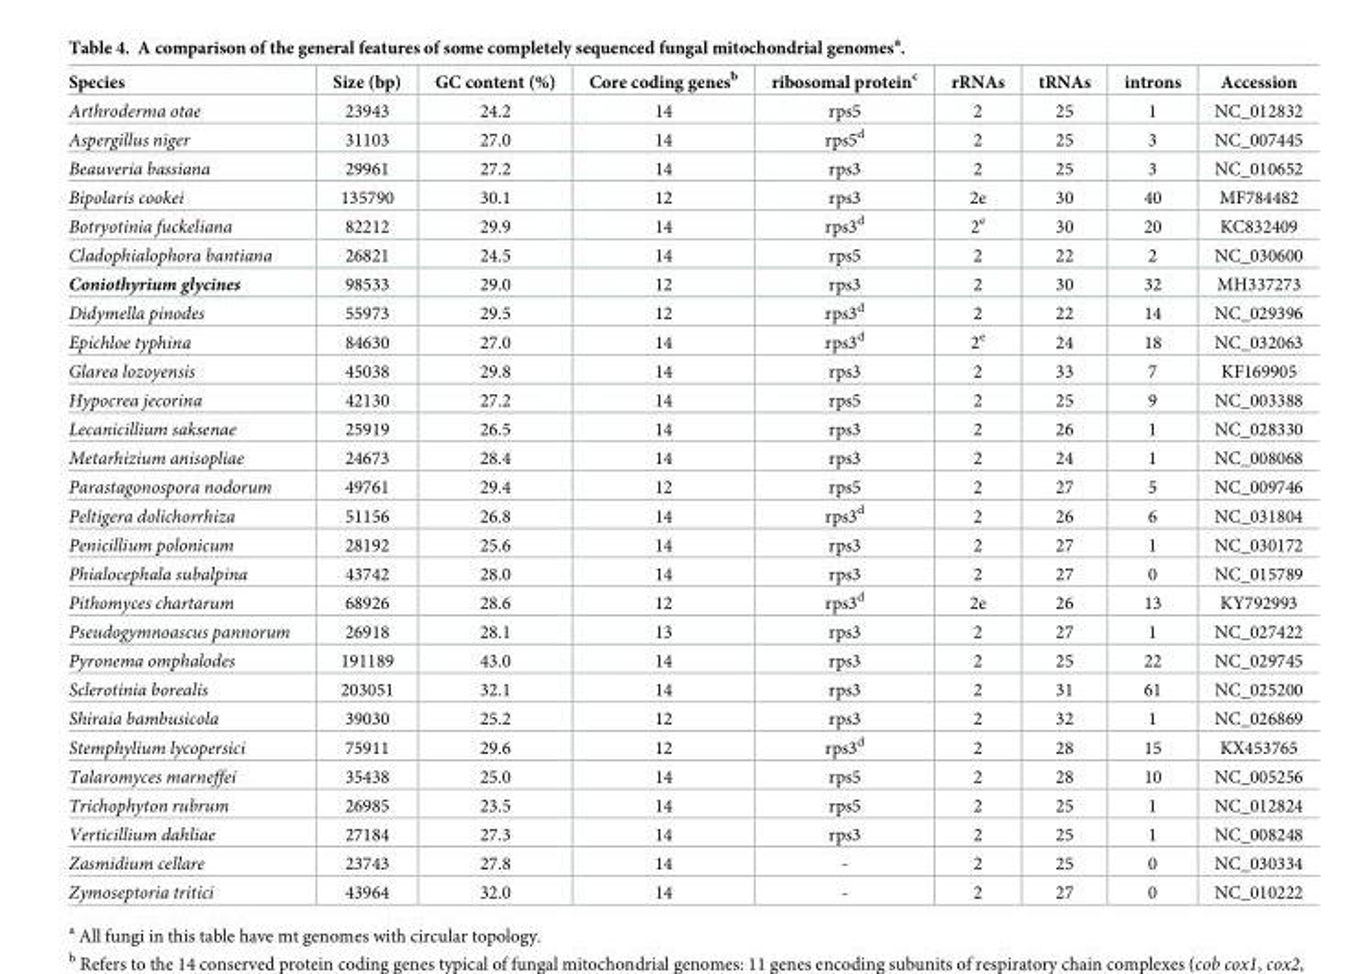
<table><thead><tr><td>Species</td><td>Size (bp)</td><td>GC content (%)</td><td>Core coding genes<sup>b</sup></td><td>ribosomal protein<sup>c</sup></td><td>rRNAs</td><td>tRNAs</td><td>introns</td><td>Accession</td></tr></thead><tbody><tr><td>Arthroderma otae</td><td>23943</td><td>24.2</td><td>14</td><td>rps5</td><td>2</td><td>25</td><td>1</td><td>NC_012832</td></tr><tr><td>Aspergillus niger</td><td>31103</td><td>27.0</td><td>14</td><td>rps5<sup>d</sup></td><td>2</td><td>25</td><td>3</td><td>NC_007445</td></tr><tr><td>Beauveria bassiana</td><td>29961</td><td>27.2</td><td>14</td><td>rps3</td><td>2</td><td>25</td><td>3</td><td>NC_010652</td></tr><tr><td>Bipolaris cookei</td><td>135790</td><td>30.1</td><td>12</td><td>rps3</td><td>2e</td><td>30</td><td>40</td><td>MF784482</td></tr><tr><td>Botryotinia fuckeliana</td><td>82212</td><td>29.9</td><td>14</td><td>rps3<sup>d</sup></td><td>2<sup>e</sup></td><td>30</td><td>20</td><td>KC832409</td></tr><tr><td>Cladophialophora bantiana</td><td>26821</td><td>24.5</td><td>14</td><td>rps5</td><td>2</td><td>22</td><td>2</td><td>NC_030600</td></tr><tr><td>Coniothyrium glycines</td><td>98533</td><td>29.0</td><td>12</td><td>rps3</td><td>2</td><td>30</td><td>32</td><td>MH337273</td></tr><tr><td>Didymella pinodes</td><td>55973</td><td>29.5</td><td>12</td><td>rps3<sup>d</sup></td><td>2</td><td>22</td><td>14</td><td>NC_029396</td></tr><tr><td>Epichloe typhina</td><td>84630</td><td>27.0</td><td>14</td><td>rps3<sup>d</sup></td><td>2<sup>e</sup></td><td>24</td><td>18</td><td>NC_032063</td></tr><tr><td>Glarea lozoyensis</td><td>45038</td><td>29.8</td><td>14</td><td>rps3</td><td>2</td><td>33</td><td>7</td><td>KF169905</td></tr><tr><td>Hypocrea jecorina</td><td>42130</td><td>27.2</td><td>14</td><td>rps5</td><td>2</td><td>25</td><td>9</td><td>NC_003388</td></tr><tr><td>Lecanicillium saksenae</td><td>25919</td><td>26.5</td><td>14</td><td>rps3</td><td>2</td><td>26</td><td>1</td><td>NC_028330</td></tr><tr><td>Metarhizium anisopliae</td><td>24673</td><td>28.4</td><td>14</td><td>rps3</td><td>2</td><td>24</td><td>1</td><td>NC_008068</td></tr><tr><td>Parastagonospora nodorum</td><td>49761</td><td>29.4</td><td>12</td><td>rps5</td><td>2</td><td>27</td><td>5</td><td>NC_009746</td></tr><tr><td>Peltigera dolichorrhiza</td><td>51156</td><td>26.8</td><td>14</td><td>rps3<sup>d</sup></td><td>2</td><td>26</td><td>6</td><td>NC_031804</td></tr><tr><td>Penicillium polonicum</td><td>28192</td><td>25.6</td><td>14</td><td>rps3</td><td>2</td><td>27</td><td>1</td><td>NC_030172</td></tr><tr><td>Phialocephala subalpina</td><td>43742</td><td>28.0</td><td>14</td><td>rps3</td><td>2</td><td>27</td><td>0</td><td>NC_015789</td></tr><tr><td>Pithomyces chartarum</td><td>68926</td><td>28.6</td><td>12</td><td>rps3<sup>d</sup></td><td>2e</td><td>26</td><td>13</td><td>KY792993</td></tr><tr><td>Pseudogymnoascus pannorum</td><td>26918</td><td>28.1</td><td>13</td><td>rps3</td><td>2</td><td>27</td><td>1</td><td>NC_027422</td></tr><tr><td>Pyronema omphalodes</td><td>191189</td><td>43.0</td><td>14</td><td>rps3</td><td>2</td><td>25</td><td>22</td><td>NC_029745</td></tr><tr><td>Sclerotinia borealis</td><td>203051</td><td>32.1</td><td>14</td><td>rps3</td><td>2</td><td>31</td><td>61</td><td>NC_025200</td></tr><tr><td>Shiraia bambusicola</td><td>39030</td><td>25.2</td><td>12</td><td>rps3</td><td>2</td><td>32</td><td>1</td><td>NC_026869</td></tr><tr><td>Stemphylium lycopersici</td><td>75911</td><td>29.6</td><td>12</td><td>rps3<sup>d</sup></td><td>2</td><td>28</td><td>15</td><td>KX453765</td></tr><tr><td>Talaromyces marneffei</td><td>35438</td><td>25.0</td><td>14</td><td>rps5</td><td>2</td><td>28</td><td>10</td><td>NC_005256</td></tr><tr><td>Trichophyton rubrum</td><td>26985</td><td>23.5</td><td>14</td><td>rps5</td><td>2</td><td>25</td><td>1</td><td>NC_012824</td></tr><tr><td>Verticillium dahliae</td><td>27184</td><td>27.3</td><td>14</td><td>rps3</td><td>2</td><td>25</td><td>1</td><td>NC_008248</td></tr><tr><td>Zasmidium cellare</td><td>23743</td><td>27.8</td><td>14</td><td>-</td><td>2</td><td>25</td><td>0</td><td>NC_030334</td></tr><tr><td>Zymoseptoria tritici</td><td>43964</td><td>32.0</td><td>14</td><td>-</td><td>2</td><td>27</td><td>0</td><td>NC_010222</td></tr></tbody></table>